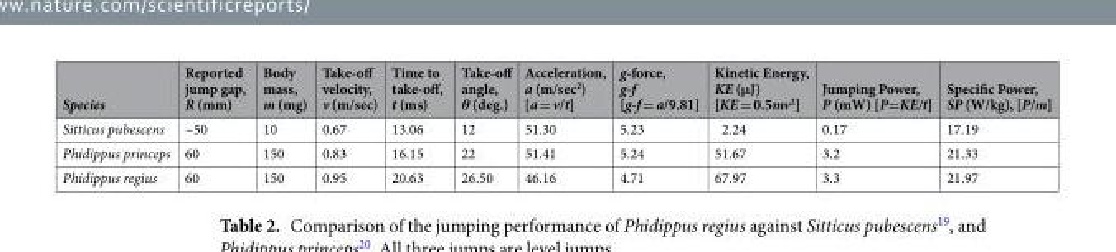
<table><thead><tr><td>Species</td><td>Reported jump gap, R (mm)</td><td>Body mass, m (mg)</td><td>Take-off velocity, v (m/sec)</td><td>Time to take-off, t (ms)</td><td>Take-off angle, θ (deg.)</td><td>Acceleration, a (m/sec<sup>2</sup>) [a = v/t]</td><td>g-force, g-f [g-f = a/9.81]</td><td>Kinetic Energy, KE (μJ) [KE = 0.5mv<sup>2</sup>]</td><td>Jumping Power, P (mW) [P=KE/t]</td><td>Specific Power, SP (W/kg), [P/m]</td></tr></thead><tbody><tr><td>Sitticus pubescens</td><td>~50</td><td>10</td><td>0.67</td><td>13.06</td><td>12</td><td>51.30</td><td>5.23</td><td>2.24</td><td>0.17</td><td>17.19</td></tr><tr><td>Phidippus princeps</td><td>60</td><td>150</td><td>0.83</td><td>16.15</td><td>22</td><td>51.41</td><td>5.24</td><td>51.67</td><td>3.2</td><td>21.33</td></tr><tr><td>Phidippus regius</td><td>60</td><td>150</td><td>0.95</td><td>20.63</td><td>26.50</td><td>46.16</td><td>4.71</td><td>67.97</td><td>3.3</td><td>21.97</td></tr></tbody></table>